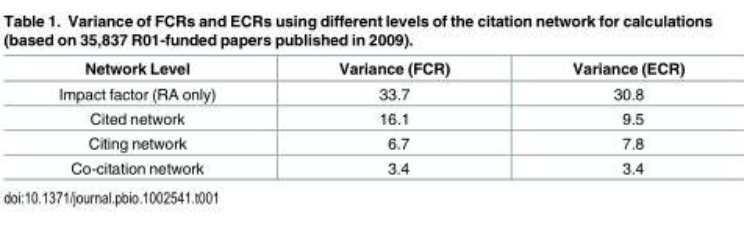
<table><thead><tr><td>Network Level</td><td>Variance (FCR)</td><td>Variance (ECR)</td></tr></thead><tbody><tr><td>Impact factor (RA only)</td><td>33.7</td><td>30.8</td></tr><tr><td>Cited network</td><td>16.1</td><td>9.5</td></tr><tr><td>Citing network</td><td>6.7</td><td>7.8</td></tr><tr><td>Co-citation network</td><td>3.4</td><td>3.4</td></tr></tbody></table>